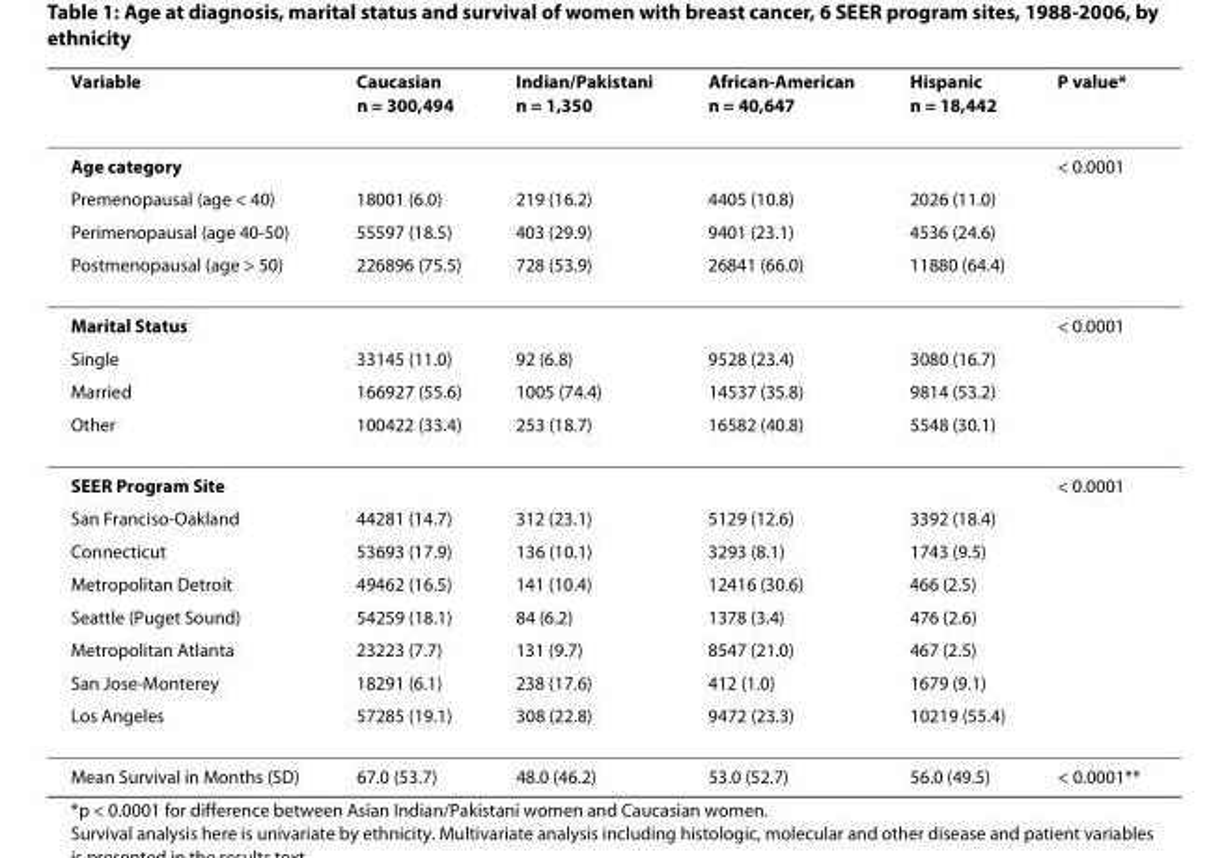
<table><thead><tr><td>Variable</td><td>Caucasian n = 300,494</td><td>Indian/Pakistani n = 1,350</td><td>African-American n = 40,647</td><td>Hispanic n = 18,442</td><td>P value*</td></tr></thead><tbody><tr><td>Age category</td><td></td><td></td><td></td><td></td><td>&lt; 0.0001</td></tr><tr><td>Premenopausal (age &lt; 40)</td><td>18001 (6.0)</td><td>219 (16.2)</td><td>4405 (10.8)</td><td>2026 (11.0)</td><td></td></tr><tr><td>Perimenopausal (age 40-50)</td><td>55597 (18.5)</td><td>403 (29.9)</td><td>9401 (23.1)</td><td>4536 (24.6)</td><td></td></tr><tr><td>Postmenopausal (age &gt; 50)</td><td>226896 (75.5)</td><td>728 (53.9)</td><td>26841 (66.0)</td><td>11880 (64.4)</td><td></td></tr><tr><td>Marital Status</td><td></td><td></td><td></td><td></td><td>&lt; 0.0001</td></tr><tr><td>Single</td><td>33145 (11.0)</td><td>92 (6.8)</td><td>9528 (23.4)</td><td>3080 (16.7)</td><td></td></tr><tr><td>Married</td><td>166927 (55.6)</td><td>1005 (74.4)</td><td>14537 (35.8)</td><td>9814 (53.2)</td><td></td></tr><tr><td>Other</td><td>100422 (33.4)</td><td>253 (18.7)</td><td>16582 (40.8)</td><td>5548 (30.1)</td><td></td></tr><tr><td>SEER Program Site</td><td></td><td></td><td></td><td></td><td>&lt; 0.0001</td></tr><tr><td>San Franciso-Oakland</td><td>44281 (14.7)</td><td>312 (23.1)</td><td>5129 (12.6)</td><td>3392 (18.4)</td><td></td></tr><tr><td>Connecticut</td><td>53693 (17.9)</td><td>136 (10.1)</td><td>3293 (8.1)</td><td>1743 (9.5)</td><td></td></tr><tr><td>Metropolitan Detroit</td><td>49462 (16.5)</td><td>141 (10.4)</td><td>12416 (30.6)</td><td>466 (2.5)</td><td></td></tr><tr><td>Seattle (Puget Sound)</td><td>54259 (18.1)</td><td>84 (6.2)</td><td>1378 (3.4)</td><td>476 (2.6)</td><td></td></tr><tr><td>Metropolitan Atlanta</td><td>23223 (7.7)</td><td>131 (9.7)</td><td>8547 (21.0)</td><td>467 (2.5)</td><td></td></tr><tr><td>San Jose-Monterey</td><td>18291 (6.1)</td><td>238 (17.6)</td><td>412 (1.0)</td><td>1679 (9.1)</td><td></td></tr><tr><td>Los Angeles</td><td>57285 (19.1)</td><td>308 (22.8)</td><td>9472 (23.3)</td><td>10219 (55.4)</td><td></td></tr><tr><td>Mean Survival in Months (SD)</td><td>67.0 (53.7)</td><td>48.0 (46.2)</td><td>53.0 (52.7)</td><td>56.0 (49.5)</td><td>&lt; 0.0001**</td></tr></tbody></table>